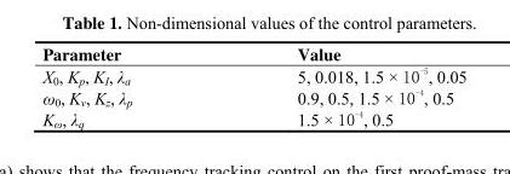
<table><thead><tr><td>Parameter</td><td>Value</td></tr></thead><tbody><tr><td>X<sub>0</sub>, K<sub>p</sub>, K<sub>I</sub>, λ<sub>a</sub></td><td>5, 0.018, 1.5 × 10 <sup>-5</sup>, 0.05</td></tr><tr><td>ω<sub>0</sub>, K<sub>v</sub>, K<sub>z</sub>, λ<sub>p</sub></td><td>0.9, 0.5, 1.5 × 10 <sup>-4</sup>, 0.5</td></tr><tr><td>K<sub>ω</sub>, λ<sub>q</sub></td><td>1.5 × 10 <sup>-4</sup>, 0.5</td></tr></tbody></table>